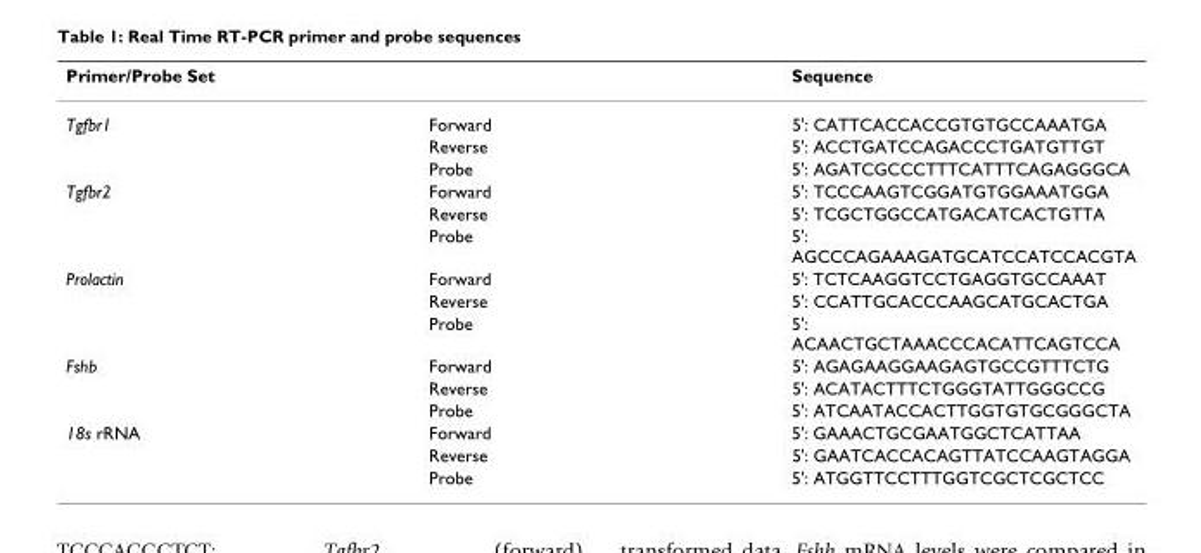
<table><thead><tr><td>Primer/Probe Set</td><td></td><td>Sequence</td></tr></thead><tbody><tr><td rowspan="3">Tgfbr1</td><td>Forward</td><td>5&#x27;: CATTCACCACCGTGTGCCAAATGA</td></tr><tr><td>Reverse</td><td>5&#x27;: ACCTGATCCAGACCCTGATGTTGT</td></tr><tr><td>Probe</td><td>5&#x27;: AGATCGCCCTTTCATTTCAGAGGGCA</td></tr><tr><td rowspan="3">Tgfbr2</td><td>Forward</td><td>5&#x27;: TCCCAAGTCGGATGTGGAAATGGA</td></tr><tr><td>Reverse</td><td>5&#x27;: TCGCTGGCCATGACATCACTGTTA</td></tr><tr><td>Probe</td><td>5&#x27;: AGCCCAGAAAGATGCATCCATCCACGTA</td></tr><tr><td rowspan="3">Prolactin</td><td>Forward</td><td>5&#x27;: TCTCAAGGTCCTGAGGTGCCAAAT</td></tr><tr><td>Reverse</td><td>5&#x27;: CCATTGCACCCAAGCATGCACTGA</td></tr><tr><td>Probe</td><td>5&#x27;: ACAACTGCTAAACCCACATTCAGTCCA</td></tr><tr><td rowspan="3">Fshb</td><td>Forward</td><td>5&#x27;: AGAGAAGGAAGAGTGCCGTTTCTG</td></tr><tr><td>Reverse</td><td>5&#x27;: ACATACTTTCTGGGTATTGGGCCG</td></tr><tr><td>Probe</td><td>5&#x27;: ATCAATACCACTTGGTGTGCGGGCTA</td></tr><tr><td rowspan="3">18s rRNA</td><td>Forward</td><td>5&#x27;: GAAACTGCGAATGGCTCATTAA</td></tr><tr><td>Reverse</td><td>5&#x27;: GAATCACCACAGTTATCCAAGTAGGA</td></tr><tr><td>Probe</td><td>5&#x27;: ATGGTTCCTTTGGTCGCTCGCTCC</td></tr></tbody></table>